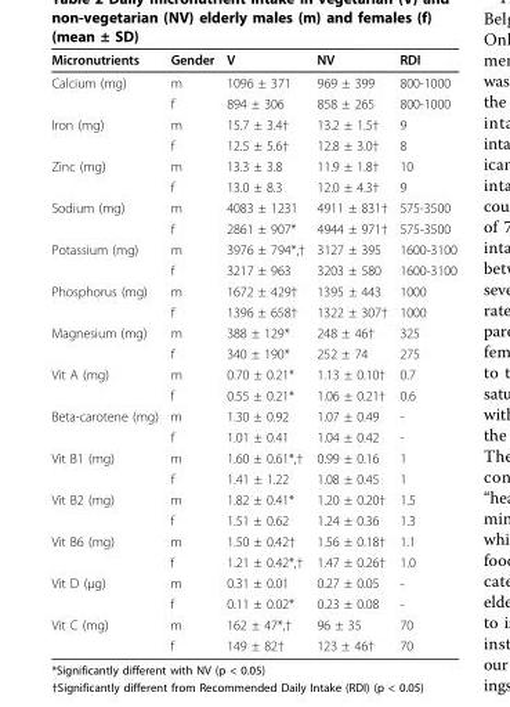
<table><thead><tr><td>Micronutrients</td><td>Gender</td><td>V</td><td>NV</td><td>RDI</td></tr></thead><tbody><tr><td rowspan="2">Calcium (mg)</td><td>m</td><td>1096 ± 371</td><td>969 ± 399</td><td>800-1000</td></tr><tr><td>f</td><td>894 ± 306</td><td>858 ± 265</td><td>800-1000</td></tr><tr><td rowspan="2">Iron (mg)</td><td>m</td><td>15.7 ± 3.4†</td><td>13.2 ± 1.5†</td><td>9</td></tr><tr><td>f</td><td>12.5 ± 5.6†</td><td>12.8 ± 3.0†</td><td>8</td></tr><tr><td rowspan="2">Zinc (mg)</td><td>m</td><td>13.3 ± 3.8</td><td>11.9 ± 1.8†</td><td>10</td></tr><tr><td>f</td><td>13.0 ± 8.3</td><td>12.0 ± 4.3†</td><td>9</td></tr><tr><td rowspan="2">Sodium (mg)</td><td>m</td><td>4083 ± 1231</td><td>4911 ± 831†</td><td>575-3500</td></tr><tr><td>f</td><td>2861 ± 907*</td><td>4944 ± 971†</td><td>575-3500</td></tr><tr><td rowspan="2">Potassium (mg)</td><td>m</td><td>3976 ± 794*,†</td><td>3127 ± 395</td><td>1600-3100</td></tr><tr><td>f</td><td>3217 ± 963</td><td>3203 ± 580</td><td>1600-3100</td></tr><tr><td rowspan="2">Phosphorus (mg)</td><td>m</td><td>1672 ± 429†</td><td>1395 ± 443</td><td>1000</td></tr><tr><td>f</td><td>1396 ± 658†</td><td>1322 ± 307†</td><td>1000</td></tr><tr><td rowspan="2">Magnesium (mg)</td><td>m</td><td>388 ± 129*</td><td>248 ± 46†</td><td>325</td></tr><tr><td>f</td><td>340 ± 190*</td><td>252 ± 74</td><td>275</td></tr><tr><td rowspan="2">Vit A (mg)</td><td>m</td><td>0.70 ± 0.21*</td><td>1.13 ± 0.10†</td><td>0.7</td></tr><tr><td>f</td><td>0.55 ± 0.21*</td><td>1.06 ± 0.21†</td><td>0.6</td></tr><tr><td rowspan="2">Beta-carotene (mg)</td><td>m</td><td>1.30 ± 0.92</td><td>1.07 ± 0.49</td><td>-</td></tr><tr><td>f</td><td>1.01 ± 0.41</td><td>1.04 ± 0.42</td><td>-</td></tr><tr><td rowspan="2">Vit B1 (mg)</td><td>m</td><td>1.60 ± 0.61*,†</td><td>0.99 ± 0.16</td><td>1</td></tr><tr><td>f</td><td>1.41 ± 1.22</td><td>1.08 ± 0.45</td><td>1</td></tr><tr><td rowspan="2">Vit B2 (mg)</td><td>m</td><td>1.82 ± 0.41*</td><td>1.20 ± 0.20†</td><td>1.5</td></tr><tr><td>f</td><td>1.51 ± 0.62</td><td>1.24 ± 0.36</td><td>1.3</td></tr><tr><td rowspan="2">Vit B6 (mg)</td><td>m</td><td>1.50 ± 0.42†</td><td>1.56 ± 0.18†</td><td>1.1</td></tr><tr><td>f</td><td>1.21 ± 0.42*,†</td><td>1.47 ± 0.26†</td><td>1.0</td></tr><tr><td rowspan="2">Vit D (μg)</td><td>m</td><td>0.31 ± 0.01</td><td>0.27 ± 0.05</td><td>-</td></tr><tr><td>f</td><td>0.11 ± 0.02*</td><td>0.23 ± 0.08</td><td>-</td></tr><tr><td rowspan="2">Vit C (mg)</td><td>m</td><td>162 ± 47*,†</td><td>96 ± 35</td><td>70</td></tr><tr><td>f</td><td>149 ± 82†</td><td>123 ± 46†</td><td>70</td></tr></tbody></table>